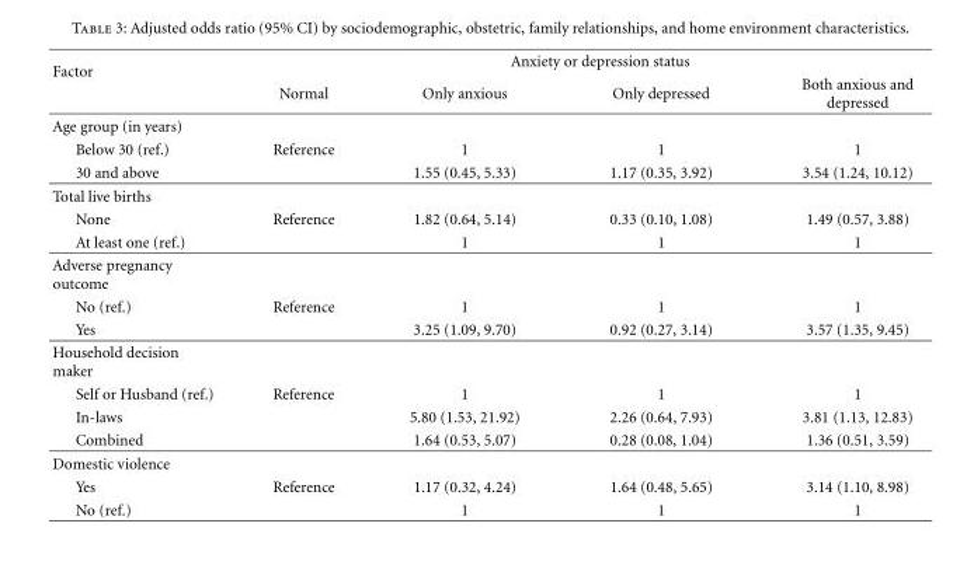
<table><thead><tr><td rowspan="2">Factor</td><td colspan="4">Anxiety or depression status</td></tr><tr><td>Normal</td><td>Only anxious</td><td>Only depressed</td><td>Both anxious and depressed</td></tr></thead><tbody><tr><td colspan="5">Age group (in years)</td></tr><tr><td>Below 30 (ref.)</td><td>Reference</td><td>1</td><td>1</td><td>1</td></tr><tr><td>30 and above</td><td></td><td>1.55 (0.45, 5.33)</td><td>1.17 (0.35, 3.92)</td><td>3.54 (1.24, 10.12)</td></tr><tr><td colspan="5">Total live births</td></tr><tr><td>None</td><td>Reference</td><td>1.82 (0.64, 5.14)</td><td>0.33 (0.10, 1.08)</td><td>1.49 (0.57, 3.88)</td></tr><tr><td>At least one (ref.)</td><td></td><td>1</td><td>1</td><td>1</td></tr><tr><td colspan="5">Adverse pregnancy outcome</td></tr><tr><td>No (ref.)</td><td>Reference</td><td>1</td><td>1</td><td>1</td></tr><tr><td>Yes</td><td></td><td>3.25 (1.09, 9.70)</td><td>0.92 (0.27, 3.14)</td><td>3.57 (1.35, 9.45)</td></tr><tr><td colspan="5">Household decision maker</td></tr><tr><td>Self or Husband (ref.)</td><td>Reference</td><td>1</td><td>1</td><td>1</td></tr><tr><td>In-laws</td><td></td><td>5.80 (1.53, 21.92)</td><td>2.26 (0.64, 7.93)</td><td>3.81 (1.13, 12.83)</td></tr><tr><td>Combined</td><td></td><td>1.64 (0.53, 5.07)</td><td>0.28 (0.08, 1.04)</td><td>1.36 (0.51, 3.59)</td></tr><tr><td colspan="5">Domestic violence</td></tr><tr><td>Yes</td><td>Reference</td><td>1.17 (0.32, 4.24)</td><td>1.64 (0.48, 5.65)</td><td>3.14 (1.10, 8.98)</td></tr><tr><td>No (ref.)</td><td></td><td>1</td><td>1</td><td>1</td></tr></tbody></table>